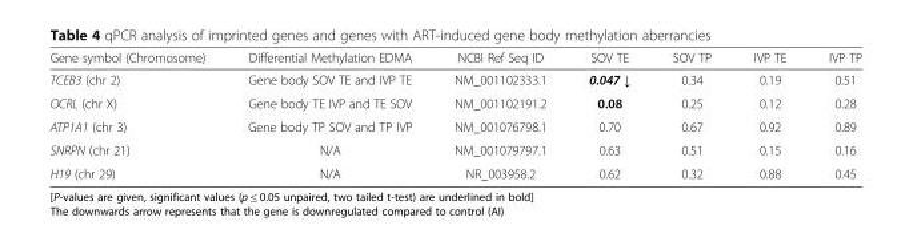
<table><thead><tr><td>Gene symbol (Chromosome)</td><td>Differential Methylation EDMA</td><td>NCBI Ref Seq ID</td><td>SOV TE</td><td>SOV TP</td><td>IVP TE</td><td>IVP TP</td></tr></thead><tbody><tr><td>TCEB3 (chr 2)</td><td>Gene body SOV TE and IVP TE</td><td>NM_001102333.1</td><td>0.047 ↓</td><td>0.34</td><td>0.19</td><td>0.51</td></tr><tr><td>OCRL (chr X)</td><td>Gene body TE IVP and TE SOV</td><td>NM_001102191.2</td><td>0.08</td><td>0.25</td><td>0.12</td><td>0.28</td></tr><tr><td>ATP1A1 (chr 3)</td><td>Gene body TP SOV and TP IVP</td><td>NM_001076798.1</td><td>0.70</td><td>0.67</td><td>0.92</td><td>0.89</td></tr><tr><td>SNRPN (chr 21)</td><td>N/A</td><td>NM_001079797.1</td><td>0.63</td><td>0.51</td><td>0.15</td><td>0.16</td></tr><tr><td>H19 (chr 29)</td><td>N/A</td><td>NR_003958.2</td><td>0.62</td><td>0.32</td><td>0.88</td><td>0.45</td></tr></tbody></table>